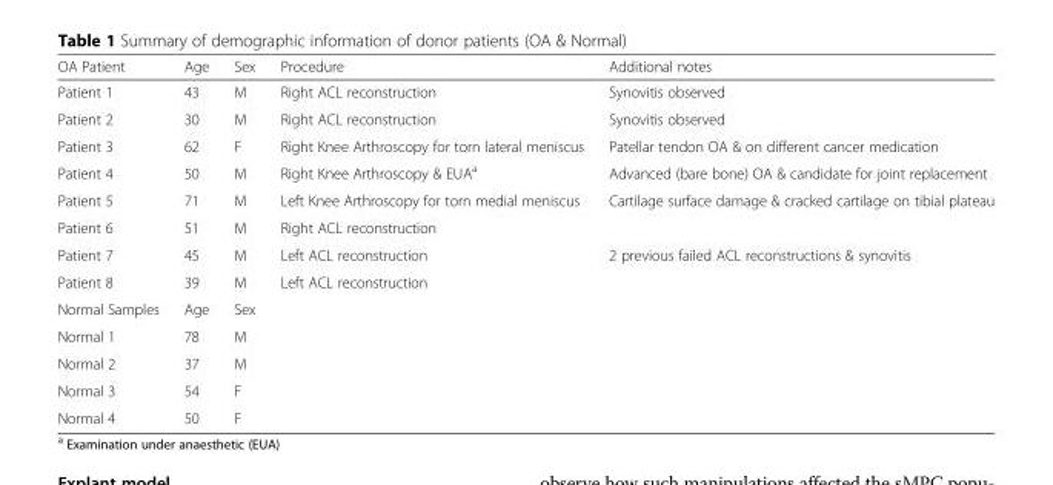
<table><thead><tr><td>OA Patient</td><td>Age</td><td>Sex</td><td>Procedure</td><td>Additional notes</td></tr></thead><tbody><tr><td>Patient 1</td><td>43</td><td>M</td><td>Right ACL reconstruction</td><td>Synovitis observed</td></tr><tr><td>Patient 2</td><td>30</td><td>M</td><td>Right ACL reconstruction</td><td>Synovitis observed</td></tr><tr><td>Patient 3</td><td>62</td><td>F</td><td>Right Knee Arthroscopy for torn lateral meniscus</td><td>Patellar tendon OA &amp; on different cancer medication</td></tr><tr><td>Patient 4</td><td>50</td><td>M</td><td>Right Knee Arthroscopy &amp; EUA<sup>a</sup></td><td>Advanced (bare bone) OA &amp; candidate for joint replacement</td></tr><tr><td>Patient 5</td><td>71</td><td>M</td><td>Left Knee Arthroscopy for torn medial meniscus</td><td>Cartilage surface damage &amp; cracked cartilage on tibial plateau</td></tr><tr><td>Patient 6</td><td>51</td><td>M</td><td>Right ACL reconstruction</td><td></td></tr><tr><td>Patient 7</td><td>45</td><td>M</td><td>Left ACL reconstruction</td><td>2 previous failed ACL reconstructions &amp; synovitis</td></tr><tr><td>Patient 8</td><td>39</td><td>M</td><td>Left ACL reconstruction</td><td></td></tr><tr><td>Normal Samples</td><td>Age</td><td>Sex</td><td colspan="2"></td></tr><tr><td>Normal 1</td><td>78</td><td>M</td><td rowspan="4" colspan="2"></td></tr><tr><td>Normal 2</td><td>37</td><td>M</td></tr><tr><td>Normal 3</td><td>54</td><td>F</td></tr><tr><td>Normal 4</td><td>50</td><td>F</td></tr></tbody></table>